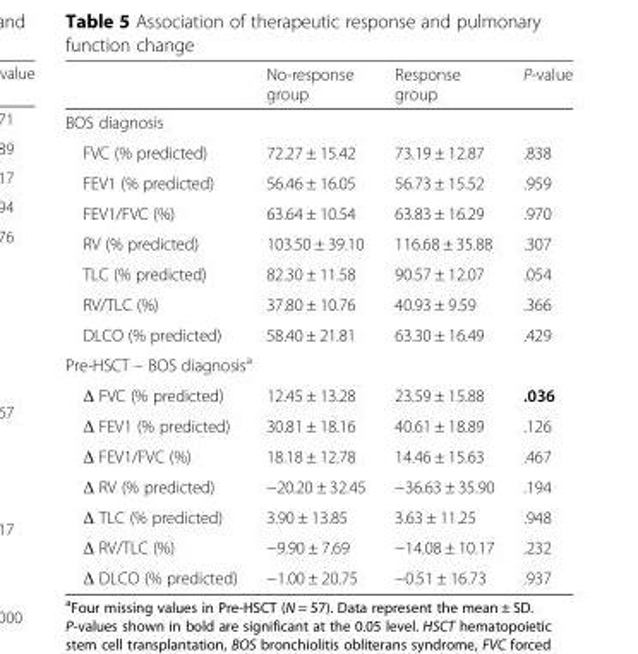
<table><thead><tr><td></td><td>No-response group</td><td>Response group</td><td>P-value</td></tr></thead><tbody><tr><td colspan="4">BOS diagnosis</td></tr><tr><td>FVC (% predicted)</td><td>72.27 ± 15.42</td><td>73.19 ± 12.87</td><td>.838</td></tr><tr><td>FEV1 (% predicted)</td><td>56.46 ± 16.05</td><td>56.73 ± 15.52</td><td>.959</td></tr><tr><td>FEV1/FVC (%)</td><td>63.64 ± 10.54</td><td>63.83 ± 16.29</td><td>.970</td></tr><tr><td>RV (% predicted)</td><td>103.50 ± 39.10</td><td>116.68 ± 35.88</td><td>.307</td></tr><tr><td>TLC (% predicted)</td><td>82.30 ± 11.58</td><td>90.57 ± 12.07</td><td>.054</td></tr><tr><td>RV/TLC (%)</td><td>37.80 ± 10.76</td><td>40.93 ± 9.59</td><td>.366</td></tr><tr><td>DLCO (% predicted)</td><td>58.40 ± 21.81</td><td>63.30 ± 16.49</td><td>.429</td></tr><tr><td colspan="4">Pre-HSCT – BOS diagnosis<sup>a</sup></td></tr><tr><td>Δ FVC (% predicted)</td><td>12.45 ± 13.28</td><td>23.59 ± 15.88</td><td>.036</td></tr><tr><td>Δ FEV1 (% predicted)</td><td>30.81 ± 18.16</td><td>40.61 ± 18.89</td><td>.126</td></tr><tr><td>Δ FEV1/FVC (%)</td><td>18.18 ± 12.78</td><td>14.46 ± 15.63</td><td>.467</td></tr><tr><td>Δ RV (% predicted)</td><td>−20.20 ± 32.45</td><td>−36.63 ± 35.90</td><td>.194</td></tr><tr><td>Δ TLC (% predicted)</td><td>3.90 ± 13.85</td><td>3.63 ± 11.25</td><td>.948</td></tr><tr><td>Δ RV/TLC (%)</td><td>−9.90 ± 7.69</td><td>−14.08 ± 10.17</td><td>.232</td></tr><tr><td>Δ DLCO (% predicted)</td><td>−1.00 ± 20.75</td><td>−0.51 ± 16.73</td><td>.937</td></tr></tbody></table>